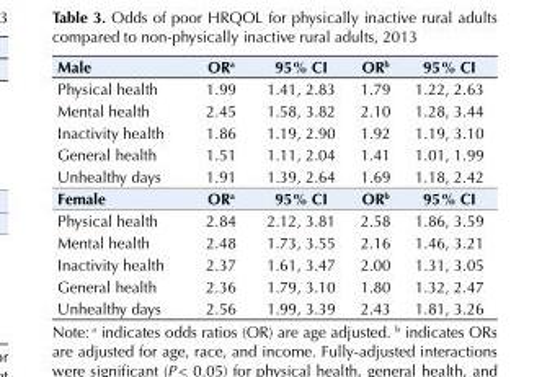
<table><tbody><tr><td>Male</td><td>OR<sup>a</sup></td><td>95% CI</td><td>OR<sup>b</sup></td><td>95% CI</td></tr><tr><td>Physical health</td><td>1.99</td><td>1.41, 2.83</td><td>1.79</td><td>1.22, 2.63</td></tr><tr><td>Mental health</td><td>2.45</td><td>1.58, 3.82</td><td>2.10</td><td>1.28, 3.44</td></tr><tr><td>Inactivity health</td><td>1.86</td><td>1.19, 2.90</td><td>1.92</td><td>1.19, 3.10</td></tr><tr><td>General health</td><td>1.51</td><td>1.11, 2.04</td><td>1.41</td><td>1.01, 1.99</td></tr><tr><td>Unhealthy days</td><td>1.91</td><td>1.39, 2.64</td><td>1.69</td><td>1.18, 2.42</td></tr><tr><td>Female</td><td>OR<sup>a</sup></td><td>95% CI</td><td>OR<sup>b</sup></td><td>95% CI</td></tr><tr><td>Physical health</td><td>2.84</td><td>2.12, 3.81</td><td>2.58</td><td>1.86, 3.59</td></tr><tr><td>Mental health</td><td>2.48</td><td>1.73, 3.55</td><td>2.16</td><td>1.46, 3.21</td></tr><tr><td>Inactivity health</td><td>2.37</td><td>1.61, 3.47</td><td>2.00</td><td>1.31, 3.05</td></tr><tr><td>General health</td><td>2.36</td><td>1.79, 3.10</td><td>1.80</td><td>1.32, 2.47</td></tr><tr><td>Unhealthy days</td><td>2.56</td><td>1.99, 3.39</td><td>2.43</td><td>1.81, 3.26</td></tr></tbody></table>